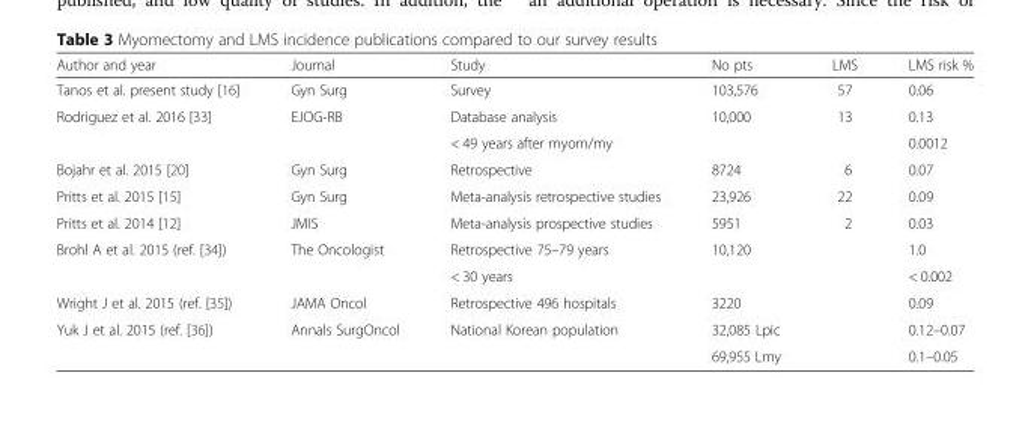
<table><thead><tr><td>Author and year</td><td>Journal</td><td>Study</td><td>No pts</td><td>LMS</td><td>LMS risk %</td></tr></thead><tbody><tr><td>Tanos et al. present study [16]</td><td>Gyn Surg</td><td>Survey</td><td>103,576</td><td>57</td><td>0.06</td></tr><tr><td rowspan="2">Rodriguez et al. 2016 [33]</td><td rowspan="2">EJOG-RB</td><td>Database analysis</td><td rowspan="2">10,000</td><td rowspan="2">13</td><td>0.13</td></tr><tr><td>&lt; 49 years after myom/my</td><td>0.0012</td></tr><tr><td>Bojahr et al. 2015 [20]</td><td>Gyn Surg</td><td>Retrospective</td><td>8724</td><td>6</td><td>0.07</td></tr><tr><td>Pritts et al. 2015 [15]</td><td>Gyn Surg</td><td>Meta-analysis retrospective studies</td><td>23,926</td><td>22</td><td>0.09</td></tr><tr><td>Pritts et al. 2014 [12]</td><td>JMIS</td><td>Meta-analysis prospective studies</td><td>5951</td><td>2</td><td>0.03</td></tr><tr><td rowspan="2">Brohl A et al. 2015 (ref. [34])</td><td rowspan="2">The Oncologist</td><td>Retrospective 75–79 years</td><td rowspan="2">10,120</td><td rowspan="2"></td><td>1.0</td></tr><tr><td>&lt; 30 years</td><td>&lt; 0.002</td></tr><tr><td>Wright J et al. 2015 (ref. [35])</td><td>JAMA Oncol</td><td>Retrospective 496 hospitals</td><td>3220</td><td></td><td>0.09</td></tr><tr><td rowspan="2">Yuk J et al. 2015 (ref. [36])</td><td rowspan="2">Annals SurgOncol</td><td rowspan="2">National Korean population</td><td>32,085 Lpic</td><td rowspan="2"></td><td>0.12–0.07</td></tr><tr><td>69,955 Lmy</td><td>0.1–0.05</td></tr></tbody></table>